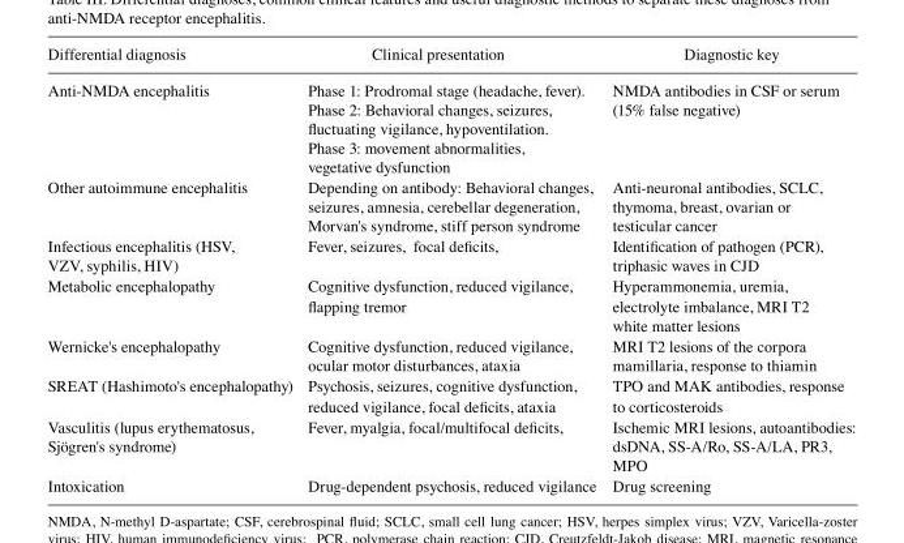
<table><thead><tr><td>Differential diagnosis</td><td>Clinical presentation</td><td>Diagnostic key</td></tr></thead><tbody><tr><td>Anti‑NMDA encephalitis</td><td>Phase 1: Prodromal stage (headache, fever). Phase 2: Behavioral changes, seizures, fluctuating vigilance, hypoventilation. Phase 3: movement abnormalities, vegetative dysfunction</td><td>NMDA antibodies in CSF or serum (15% false negative)</td></tr><tr><td>Other autoimmune encephalitis</td><td>Depending on antibody: Behavioral changes, seizures, amnesia, cerebellar degeneration, Morvan&#x27;s syndrome, stiff person syndrome</td><td>Anti‑neuronal antibodies, SCLC, thymoma, breast, ovarian or testicular cancer</td></tr><tr><td>Infectious encephalitis (HSV, VZV, syphilis, HIV)</td><td>Fever, seizures, focal deficits,</td><td>Identification of pathogen (PCR), triphasic waves in CJD</td></tr><tr><td>Metabolic encephalopathy</td><td>Cognitive dysfunction, reduced vigilance, flapping tremor</td><td>Hyperammonemia, uremia, electrolyte imbalance, MRI T2 white matter lesions</td></tr><tr><td>Wernicke&#x27;s encephalopathy</td><td>Cognitive dysfunction, reduced vigilance, ocular motor disturbances, ataxia</td><td>MRI T2 lesions of the corpora mamillaria, response to thiamin</td></tr><tr><td>SREAT (Hashimoto&#x27;s encephalopathy)</td><td>Psychosis, seizures, cognitive dysfunction, reduced vigilance, focal deficits, ataxia</td><td>TPO and MAK antibodies, response to corticosteroids</td></tr><tr><td>Vasculitis (lupus erythematosus, Sjögren&#x27;s syndrome)</td><td>Fever, myalgia, focal/multifocal deficits,</td><td>Ischemic MRI lesions, autoantibodies: dsDNA, SS‑A/Ro, SS‑A/LA, PR3, MPO</td></tr><tr><td>Intoxication</td><td>Drug-dependent psychosis, reduced vigilance</td><td>Drug screening</td></tr></tbody></table>